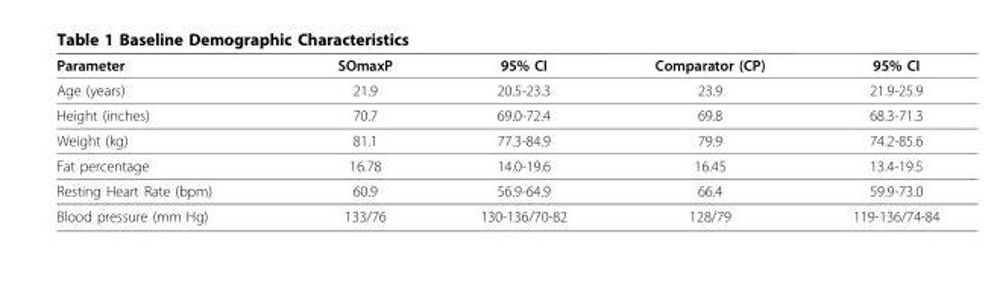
<table><thead><tr><td>Parameter</td><td>SOmaxP</td><td>95% CI</td><td>Comparator (CP)</td><td>95% CI</td></tr></thead><tbody><tr><td>Age (years)</td><td>21.9</td><td>20.5-23.3</td><td>23.9</td><td>21.9-25.9</td></tr><tr><td>Height (inches)</td><td>70.7</td><td>69.0-72.4</td><td>69.8</td><td>68.3-71.3</td></tr><tr><td>Weight (kg)</td><td>81.1</td><td>77.3-84.9</td><td>79.9</td><td>74.2-85.6</td></tr><tr><td>Fat percentage</td><td>16.78</td><td>14.0-19.6</td><td>16.45</td><td>13.4-19.5</td></tr><tr><td>Resting Heart Rate (bpm)</td><td>60.9</td><td>56.9-64.9</td><td>66.4</td><td>59.9-73.0</td></tr><tr><td>Blood pressure (mm Hg)</td><td>133/76</td><td>130-136/70-82</td><td>128/79</td><td>119-136/74-84</td></tr></tbody></table>